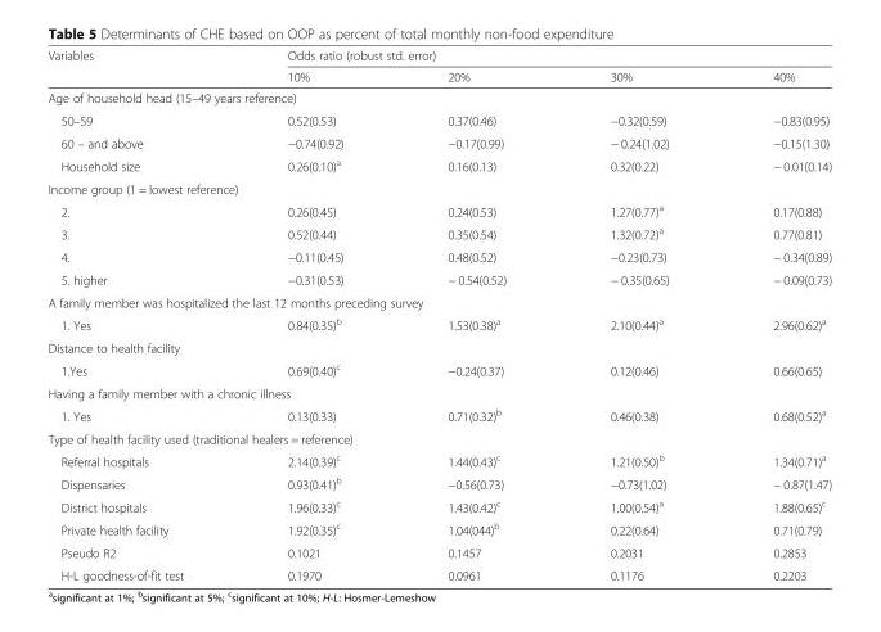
<table><thead><tr><td rowspan="2">Variables</td><td colspan="4">Odds ratio (robust std. error)</td></tr><tr><td>10%</td><td>20%</td><td>30%</td><td>40%</td></tr></thead><tbody><tr><td colspan="5">Age of household head (15–49 years reference)</td></tr><tr><td>50–59</td><td>0.52(0.53)</td><td>0.37(0.46)</td><td>−0.32(0.59)</td><td>−0.83(0.95)</td></tr><tr><td>60 – and above</td><td>−0.74(0.92)</td><td>−0.17(0.99)</td><td>− 0.24(1.02)</td><td>−0.15(1.30)</td></tr><tr><td>Household size</td><td>0.26(0.10)<sup>a</sup></td><td>0.16(0.13)</td><td>0.32(0.22)</td><td>− 0.01(0.14)</td></tr><tr><td colspan="5">Income group (1 = lowest reference)</td></tr><tr><td>2.</td><td>0.26(0.45)</td><td>0.24(0.53)</td><td>1.27(0.77)<sup>a</sup></td><td>0.17(0.88)</td></tr><tr><td>3.</td><td>0.52(0.44)</td><td>0.35(0.54)</td><td>1.32(0.72)<sup>a</sup></td><td>0.77(0.81)</td></tr><tr><td>4.</td><td>−0.11(0.45)</td><td>0.48(0.52)</td><td>−0.23(0.73)</td><td>− 0.34(0.89)</td></tr><tr><td>5. higher</td><td>−0.31(0.53)</td><td>− 0.54(0.52)</td><td>− 0.35(0.65)</td><td>− 0.09(0.73)</td></tr><tr><td colspan="5">A family member was hospitalized the last 12 months preceding survey</td></tr><tr><td>1. Yes</td><td>0.84(0.35)<sup>b</sup></td><td>1.53(0.38)<sup>a</sup></td><td>2.10(0.44)<sup>a</sup></td><td>2.96(0.62)<sup>a</sup></td></tr><tr><td colspan="5">Distance to health facility</td></tr><tr><td>1.Yes</td><td>0.69(0.40)<sup>c</sup></td><td>−0.24(0.37)</td><td>0.12(0.46)</td><td>0.66(0.65)</td></tr><tr><td colspan="5">Having a family member with a chronic illness</td></tr><tr><td>1. Yes</td><td>0.13(0.33)</td><td>0.71(0.32)<sup>b</sup></td><td>0.46(0.38)</td><td>0.68(0.52)<sup>a</sup></td></tr><tr><td colspan="5">Type of health facility used (traditional healers = reference)</td></tr><tr><td>Referral hospitals</td><td>2.14(0.39)<sup>c</sup></td><td>1.44(0.43)<sup>c</sup></td><td>1.21(0.50)<sup>b</sup></td><td>1.34(0.71)<sup>a</sup></td></tr><tr><td>Dispensaries</td><td>0.93(0.41)<sup>b</sup></td><td>−0.56(0.73)</td><td>−0.73(1.02)</td><td>− 0.87(1.47)</td></tr><tr><td>District hospitals</td><td>1.96(0.33)<sup>c</sup></td><td>1.43(0.42)<sup>c</sup></td><td>1.00(0.54)<sup>a</sup></td><td>1.88(0.65)<sup>c</sup></td></tr><tr><td>Private health facility</td><td>1.92(0.35)<sup>c</sup></td><td>1.04(044)<sup>b</sup></td><td>0.22(0.64)</td><td>0.71(0.79)</td></tr><tr><td>Pseudo R2</td><td>0.1021</td><td>0.1457</td><td>0.2031</td><td>0.2853</td></tr><tr><td>H-L goodness-of-fit test</td><td>0.1970</td><td>0.0961</td><td>0.1176</td><td>0.2203</td></tr></tbody></table>